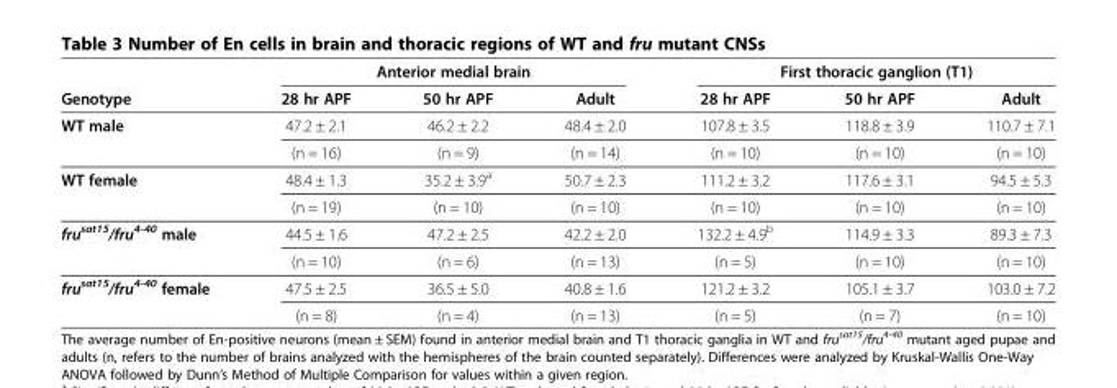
<table><thead><tr><td rowspan="2">Genotype</td><td colspan="3">Anterior medial brain</td><td colspan="3">First thoracic ganglion (T1)</td></tr><tr><td>28 hr APF</td><td>50 hr APF</td><td>Adult</td><td>28 hr APF</td><td>50 hr APF</td><td>Adult</td></tr></thead><tbody><tr><td rowspan="2">WT male</td><td>47.2 ± 2.1</td><td>46.2 ± 2.2</td><td>48.4 ± 2.0</td><td>107.8 ± 3.5</td><td>118.8 ± 3.9</td><td>110.7 ± 7.1</td></tr><tr><td>(n = 16)</td><td>(n = 9)</td><td>(n = 14)</td><td>(n = 10)</td><td>(n = 10)</td><td>(n = 10)</td></tr><tr><td rowspan="2">WT female</td><td>48.4 ± 1.3</td><td>35.2 ± 3.9<sup>a</sup></td><td>50.7 ± 2.3</td><td>111.2 ± 3.2</td><td>117.6 ± 3.1</td><td>94.5 ± 5.3</td></tr><tr><td>(n = 19)</td><td>(n = 10)</td><td>(n = 10)</td><td>(n = 10)</td><td>(n = 10)</td><td>(n = 10)</td></tr><tr><td rowspan="2">fru<sup>sat15</sup>/fru<sup>4-40</sup> male</td><td>44.5 ± 1.6</td><td>47.2 ± 2.5</td><td>42.2 ± 2.0</td><td>132.2 ± 4.9<sup>b</sup></td><td>114.9 ± 3.3</td><td>89.3 ± 7.3</td></tr><tr><td>(n = 10)</td><td>(n = 6)</td><td>(n = 13)</td><td>(n = 5)</td><td>(n = 10)</td><td>(n = 10)</td></tr><tr><td rowspan="2">fru<sup>sat15</sup>/fru<sup>4-40</sup> female</td><td>47.5 ± 2.5</td><td>36.5 ± 5.0</td><td>40.8 ± 1.6</td><td>121.2 ± 3.2</td><td>105.1 ± 3.7</td><td>103.0 ± 7.2</td></tr><tr><td>(n = 8)</td><td>(n = 4)</td><td>(n = 13)</td><td>(n = 5)</td><td>(n = 7)</td><td>(n = 10)</td></tr></tbody></table>